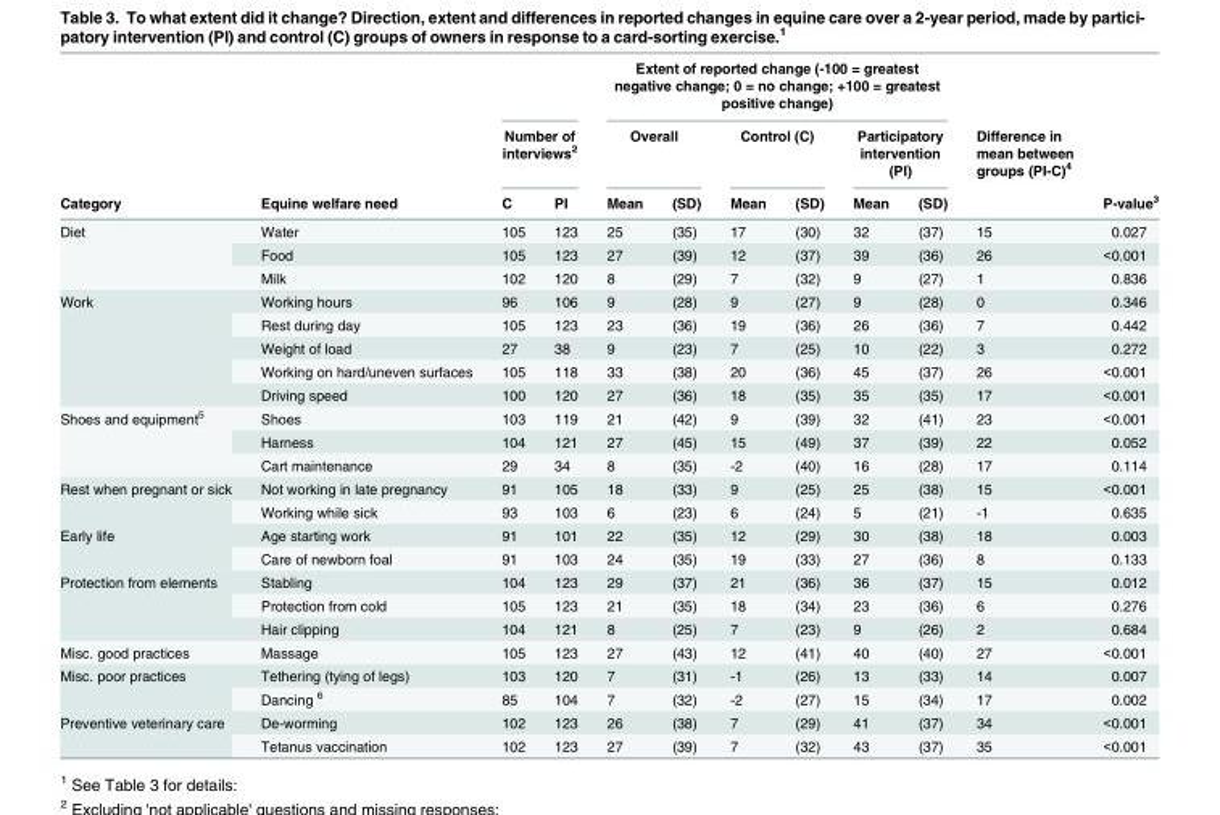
<table><thead><tr><td rowspan="3">Category</td><td rowspan="3">Equine welfare need</td><td></td><td></td><td colspan="6">Extent of reported change (-100 = greatest negative change; 0 = no change; +100 = greatest positive change)</td><td rowspan="3">Difference in mean between groups (PI-C)<sup>4</sup></td><td rowspan="3">P-value<sup>3</sup></td></tr><tr><td colspan="2">Number of interviews<sup>2</sup></td><td colspan="2">Overall</td><td colspan="2">Control (C)</td><td colspan="2">Participatory intervention (PI)</td></tr><tr><td>C</td><td>PI</td><td>Mean</td><td>(SD)</td><td>Mean</td><td>(SD)</td><td>Mean</td><td>(SD)</td></tr></thead><tbody><tr><td rowspan="3">Diet</td><td>Water</td><td>105</td><td>123</td><td>25</td><td>(35)</td><td>17</td><td>(30)</td><td>32</td><td>(37)</td><td>15</td><td>0.027</td></tr><tr><td>Food</td><td>105</td><td>123</td><td>27</td><td>(39)</td><td>12</td><td>(37)</td><td>39</td><td>(36)</td><td>26</td><td>&lt;0.001</td></tr><tr><td>Milk</td><td>102</td><td>120</td><td>8</td><td>(29)</td><td>7</td><td>(32)</td><td>9</td><td>(27)</td><td>1</td><td>0.836</td></tr><tr><td rowspan="5">Work</td><td>Working hours</td><td>96</td><td>106</td><td>9</td><td>(28)</td><td>9</td><td>(27)</td><td>9</td><td>(28)</td><td>0</td><td>0.346</td></tr><tr><td>Rest during day</td><td>105</td><td>123</td><td>23</td><td>(36)</td><td>19</td><td>(36)</td><td>26</td><td>(36)</td><td>7</td><td>0.442</td></tr><tr><td>Weight of load</td><td>27</td><td>38</td><td>9</td><td>(23)</td><td>7</td><td>(25)</td><td>10</td><td>(22)</td><td>3</td><td>0.272</td></tr><tr><td>Working on hard/uneven surfaces</td><td>105</td><td>118</td><td>33</td><td>(38)</td><td>20</td><td>(36)</td><td>45</td><td>(37)</td><td>26</td><td>&lt;0.001</td></tr><tr><td>Driving speed</td><td>100</td><td>120</td><td>27</td><td>(36)</td><td>18</td><td>(35)</td><td>35</td><td>(35)</td><td>17</td><td>&lt;0.001</td></tr><tr><td rowspan="3">Shoes and equipment<sup>5</sup></td><td>Shoes</td><td>103</td><td>119</td><td>21</td><td>(42)</td><td>9</td><td>(39)</td><td>32</td><td>(41)</td><td>23</td><td>&lt;0.001</td></tr><tr><td>Harness</td><td>104</td><td>121</td><td>27</td><td>(45)</td><td>15</td><td>(49)</td><td>37</td><td>(39)</td><td>22</td><td>0.052</td></tr><tr><td>Cart maintenance</td><td>29</td><td>34</td><td>8</td><td>(35)</td><td>-2</td><td>(40)</td><td>16</td><td>(28)</td><td>17</td><td>0.114</td></tr><tr><td rowspan="2">Rest when pregnant or sick</td><td>Not working in late pregnancy</td><td>91</td><td>105</td><td>18</td><td>(33)</td><td>9</td><td>(25)</td><td>25</td><td>(38)</td><td>15</td><td>&lt;0.001</td></tr><tr><td>Working while sick</td><td>93</td><td>103</td><td>6</td><td>(23)</td><td>6</td><td>(24)</td><td>5</td><td>(21)</td><td>-1</td><td>0.635</td></tr><tr><td rowspan="2">Early life</td><td>Age starting work</td><td>91</td><td>101</td><td>22</td><td>(35)</td><td>12</td><td>(29)</td><td>30</td><td>(38)</td><td>18</td><td>0.003</td></tr><tr><td>Care of newborn foal</td><td>91</td><td>103</td><td>24</td><td>(35)</td><td>19</td><td>(33)</td><td>27</td><td>(36)</td><td>8</td><td>0.133</td></tr><tr><td rowspan="3">Protection from elements</td><td>Stabling</td><td>104</td><td>123</td><td>29</td><td>(37)</td><td>21</td><td>(36)</td><td>36</td><td>(37)</td><td>15</td><td>0.012</td></tr><tr><td>Protection from cold</td><td>105</td><td>123</td><td>21</td><td>(35)</td><td>18</td><td>(34)</td><td>23</td><td>(36)</td><td>6</td><td>0.276</td></tr><tr><td>Hair clipping</td><td>104</td><td>121</td><td>8</td><td>(25)</td><td>7</td><td>(23)</td><td>9</td><td>(26)</td><td>2</td><td>0.684</td></tr><tr><td>Misc. good practices</td><td>Massage</td><td>105</td><td>123</td><td>27</td><td>(43)</td><td>12</td><td>(41)</td><td>40</td><td>(40)</td><td>27</td><td>&lt;0.001</td></tr><tr><td rowspan="2">Misc. poor practices</td><td>Tethering (tying of legs)</td><td>103</td><td>120</td><td>7</td><td>(31)</td><td>-1</td><td>(26)</td><td>13</td><td>(33)</td><td>14</td><td>0.007</td></tr><tr><td>Dancing <sup>6</sup></td><td>85</td><td>104</td><td>7</td><td>(32)</td><td>-2</td><td>(27)</td><td>15</td><td>(34)</td><td>17</td><td>0.002</td></tr><tr><td rowspan="2">Preventive veterinary care</td><td>De-worming</td><td>102</td><td>123</td><td>26</td><td>(38)</td><td>7</td><td>(29)</td><td>41</td><td>(37)</td><td>34</td><td>&lt;0.001</td></tr><tr><td>Tetanus vaccination</td><td>102</td><td>123</td><td>27</td><td>(39)</td><td>7</td><td>(32)</td><td>43</td><td>(37)</td><td>35</td><td>&lt;0.001</td></tr></tbody></table>